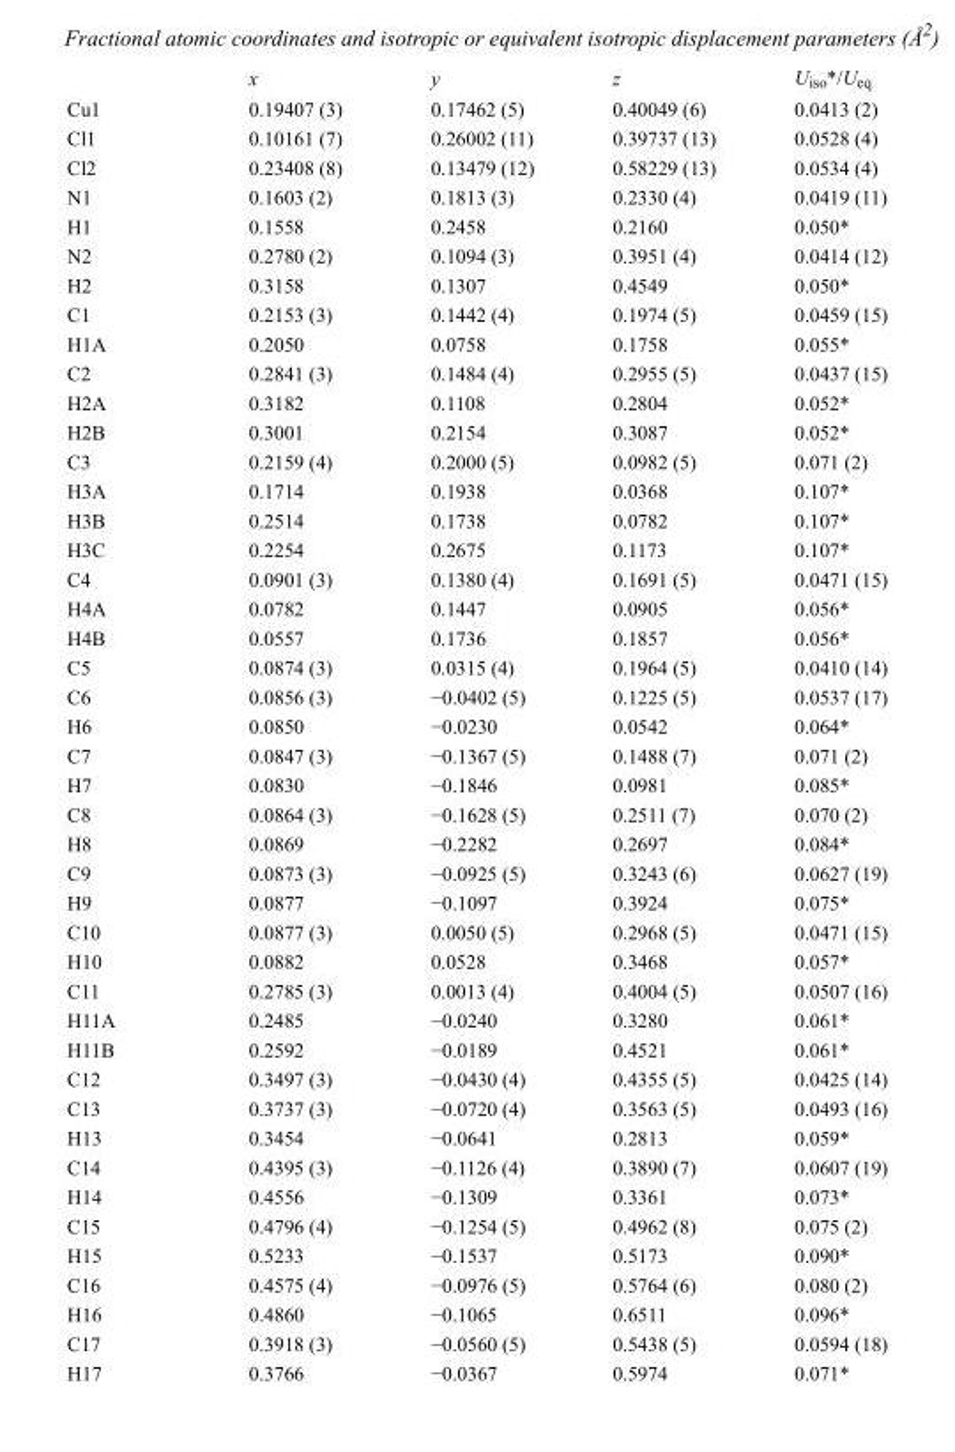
<table><thead><tr><td></td><td>x</td><td>y</td><td>z</td><td>U<sub>iso</sub>*/U<sub>eq</sub></td></tr></thead><tbody><tr><td>Cu1</td><td>0.19407 (3)</td><td>0.17462 (5)</td><td>0.40049 (6)</td><td>0.0413 (2)</td></tr><tr><td>Cl1</td><td>0.10161 (7)</td><td>0.26002 (11)</td><td>0.39737 (13)</td><td>0.0528 (4)</td></tr><tr><td>Cl2</td><td>0.23408 (8)</td><td>0.13479 (12)</td><td>0.58229 (13)</td><td>0.0534 (4)</td></tr><tr><td>N1</td><td>0.1603 (2)</td><td>0.1813 (3)</td><td>0.2330 (4)</td><td>0.0419 (11)</td></tr><tr><td>H1</td><td>0.1558</td><td>0.2458</td><td>0.2160</td><td>0.050*</td></tr><tr><td>N2</td><td>0.2780 (2)</td><td>0.1094 (3)</td><td>0.3951 (4)</td><td>0.0414 (12)</td></tr><tr><td>H2</td><td>0.3158</td><td>0.1307</td><td>0.4549</td><td>0.050*</td></tr><tr><td>C1</td><td>0.2153 (3)</td><td>0.1442 (4)</td><td>0.1974 (5)</td><td>0.0459 (15)</td></tr><tr><td>H1A</td><td>0.2050</td><td>0.0758</td><td>0.1758</td><td>0.055*</td></tr><tr><td>C2</td><td>0.2841 (3)</td><td>0.1484 (4)</td><td>0.2955 (5)</td><td>0.0437 (15)</td></tr><tr><td>H2A</td><td>0.3182</td><td>0.1108</td><td>0.2804</td><td>0.052*</td></tr><tr><td>H2B</td><td>0.3001</td><td>0.2154</td><td>0.3087</td><td>0.052*</td></tr><tr><td>C3</td><td>0.2159 (4)</td><td>0.2000 (5)</td><td>0.0982 (5)</td><td>0.071 (2)</td></tr><tr><td>H3A</td><td>0.1714</td><td>0.1938</td><td>0.0368</td><td>0.107*</td></tr><tr><td>H3B</td><td>0.2514</td><td>0.1738</td><td>0.0782</td><td>0.107*</td></tr><tr><td>H3C</td><td>0.2254</td><td>0.2675</td><td>0.1173</td><td>0.107*</td></tr><tr><td>C4</td><td>0.0901 (3)</td><td>0.1380 (4)</td><td>0.1691 (5)</td><td>0.0471 (15)</td></tr><tr><td>H4A</td><td>0.0782</td><td>0.1447</td><td>0.0905</td><td>0.056*</td></tr><tr><td>H4B</td><td>0.0557</td><td>0.1736</td><td>0.1857</td><td>0.056*</td></tr><tr><td>C5</td><td>0.0874 (3)</td><td>0.0315 (4)</td><td>0.1964 (5)</td><td>0.0410 (14)</td></tr><tr><td>C6</td><td>0.0856 (3)</td><td>−0.0402 (5)</td><td>0.1225 (5)</td><td>0.0537 (17)</td></tr><tr><td>H6</td><td>0.0850</td><td>−0.0230</td><td>0.0542</td><td>0.064*</td></tr><tr><td>C7</td><td>0.0847 (3)</td><td>−0.1367 (5)</td><td>0.1488 (7)</td><td>0.071 (2)</td></tr><tr><td>H7</td><td>0.0830</td><td>−0.1846</td><td>0.0981</td><td>0.085*</td></tr><tr><td>C8</td><td>0.0864 (3)</td><td>−0.1628 (5)</td><td>0.2511 (7)</td><td>0.070 (2)</td></tr><tr><td>H8</td><td>0.0869</td><td>−0.2282</td><td>0.2697</td><td>0.084*</td></tr><tr><td>C9</td><td>0.0873 (3)</td><td>−0.0925 (5)</td><td>0.3243 (6)</td><td>0.0627 (19)</td></tr><tr><td>H9</td><td>0.0877</td><td>−0.1097</td><td>0.3924</td><td>0.075*</td></tr><tr><td>C10</td><td>0.0877 (3)</td><td>0.0050 (5)</td><td>0.2968 (5)</td><td>0.0471 (15)</td></tr><tr><td>H10</td><td>0.0882</td><td>0.0528</td><td>0.3468</td><td>0.057*</td></tr><tr><td>C11</td><td>0.2785 (3)</td><td>0.0013 (4)</td><td>0.4004 (5)</td><td>0.0507 (16)</td></tr><tr><td>H11A</td><td>0.2485</td><td>−0.0240</td><td>0.3280</td><td>0.061*</td></tr><tr><td>H11B</td><td>0.2592</td><td>−0.0189</td><td>0.4521</td><td>0.061*</td></tr><tr><td>C12</td><td>0.3497 (3)</td><td>−0.0430 (4)</td><td>0.4355 (5)</td><td>0.0425 (14)</td></tr><tr><td>C13</td><td>0.3737 (3)</td><td>−0.0720 (4)</td><td>0.3563 (5)</td><td>0.0493 (16)</td></tr><tr><td>H13</td><td>0.3454</td><td>−0.0641</td><td>0.2813</td><td>0.059*</td></tr><tr><td>C14</td><td>0.4395 (3)</td><td>−0.1126 (4)</td><td>0.3890 (7)</td><td>0.0607 (19)</td></tr><tr><td>H14</td><td>0.4556</td><td>−0.1309</td><td>0.3361</td><td>0.073*</td></tr><tr><td>C15</td><td>0.4796 (4)</td><td>−0.1254 (5)</td><td>0.4962 (8)</td><td>0.075 (2)</td></tr><tr><td>H15</td><td>0.5233</td><td>−0.1537</td><td>0.5173</td><td>0.090*</td></tr><tr><td>C16</td><td>0.4575 (4)</td><td>−0.0976 (5)</td><td>0.5764 (6)</td><td>0.080 (2)</td></tr><tr><td>H16</td><td>0.4860</td><td>−0.1065</td><td>0.6511</td><td>0.096*</td></tr><tr><td>C17</td><td>0.3918 (3)</td><td>−0.0560 (5)</td><td>0.5438 (5)</td><td>0.0594 (18)</td></tr><tr><td>H17</td><td>0.3766</td><td>−0.0367</td><td>0.5974</td><td>0.071*</td></tr></tbody></table>